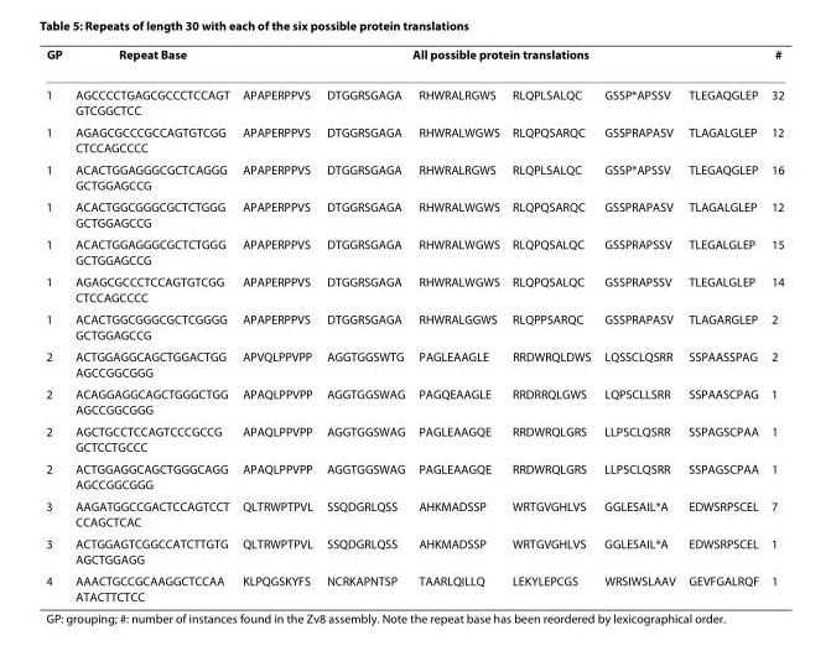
<table><thead><tr><td rowspan="2">GP 1</td><td rowspan="2">Repeat Base AGCCCCTGAGCGCCCTCCAGT GTCGGCTCC</td><td colspan="6">All possible protein translations</td><td rowspan="2"># 32</td></tr><tr><td>APAPERPPVS</td><td>DTGGRSGAGA</td><td>RHWRALRGWS</td><td>RLQPLSALQC</td><td>GSSP*APSSV</td><td>TLEGAQGLEP</td></tr></thead><tbody><tr><td>1</td><td>AGAGCGCCCGCCAGTGTCGG CTCCAGCCCC</td><td>APAPERPPVS</td><td>DTGGRSGAGA</td><td>RHWRALWGWS</td><td>RLQPQSARQC</td><td>GSSPRAPASV</td><td>TLAGALGLEP</td><td>12</td></tr><tr><td>1</td><td>ACACTGGAGGGCGCTCAGGG GCTGGAGCCG</td><td>APAPERPPVS</td><td>DTGGRSGAGA</td><td>RHWRALRGWS</td><td>RLQPLSALQC</td><td>GSSP*APSSV</td><td>TLEGAQGLEP</td><td>16</td></tr><tr><td>1</td><td>ACACTGGCGGGCGCTCTGGG GCTGGAGCCG</td><td>APAPERPPVS</td><td>DTGGRSGAGA</td><td>RHWRALWGWS</td><td>RLQPQSARQC</td><td>GSSPRAPASV</td><td>TLAGALGLEP</td><td>12</td></tr><tr><td>1</td><td>ACACTGGAGGGCGCTCTGGG GCTGGAGCCG</td><td>APAPERPPVS</td><td>DTGGRSGAGA</td><td>RHWRALWGWS</td><td>RLQPQSALQC</td><td>GSSPRAPSSV</td><td>TLEGALGLEP</td><td>15</td></tr><tr><td>1</td><td>AGAGCGCCCTCCAGTGTCGG CTCCAGCCCC</td><td>APAPERPPVS</td><td>DTGGRSGAGA</td><td>RHWRALWGWS</td><td>RLQPQSALQC</td><td>GSSPRAPSSV</td><td>TLEGALGLEP</td><td>14</td></tr><tr><td>1</td><td>ACACTGGCGGGCGCTCGGGG GCTGGAGCCG</td><td>APAPERPPVS</td><td>DTGGRSGAGA</td><td>RHWRALGGWS</td><td>RLQPPSARQC</td><td>GSSPRAPASV</td><td>TLAGARGLEP</td><td>2</td></tr><tr><td>2</td><td>ACTGGAGGCAGCTGGACTGG AGCCGGCGGG</td><td>APVQLPPVPP</td><td>AGGTGGSWTG</td><td>PAGLEAAGLE</td><td>RRDWRQLDWS</td><td>LQSSCLQSRR</td><td>SSPAASSPAG</td><td>2</td></tr><tr><td>2</td><td>ACAGGAGGCAGCTGGGCTGG AGCCGGCGGG</td><td>APAQLPPVPP</td><td>AGGTGGSWAG</td><td>PAGQEAAGLE</td><td>RRDRRQLGWS</td><td>LQPSCLLSRR</td><td>SSPAASCPAG</td><td>1</td></tr><tr><td>2</td><td>AGCTGCCTCCAGTCCCGCCG GCTCCTGCCC</td><td>APAQLPPVPP</td><td>AGGTGGSWAG</td><td>PAGLEAAGQE</td><td>RRDWRQLGRS</td><td>LLPSCLQSRR</td><td>SSPAGSCPAA</td><td>1</td></tr><tr><td>2</td><td>ACTGGAGGCAGCTGGGCAGG AGCCGGCGGG</td><td>APAQLPPVPP</td><td>AGGTGGSWAG</td><td>PAGLEAAGQE</td><td>RRDWRQLGRS</td><td>LLPSCLQSRR</td><td>SSPAGSCPAA</td><td>1</td></tr><tr><td>3</td><td>AAGATGGCCGACTCCAGTCCT CCAGCTCAC</td><td>QLTRWPTPVL</td><td>SSQDGRLQSS</td><td>AHKMADSSP</td><td>WRTGVGHLVS</td><td>GGLESAIL*A</td><td>EDWSRPSCEL</td><td>7</td></tr><tr><td>3</td><td>ACTGGAGTCGGCCATCTTGTG AGCTGGAGG</td><td>QLTRWPTPVL</td><td>SSQDGRLQSS</td><td>AHKMADSSP</td><td>WRTGVGHLVS</td><td>GGLESAIL*A</td><td>EDWSRPSCEL</td><td>1</td></tr><tr><td>4</td><td>AAACTGCCGCAAGGCTCCAA ATACTTCTCC</td><td>KLPQGSKYFS</td><td>NCRKAPNTSP</td><td>TAARLQILLQ</td><td>LEKYLEPCGS</td><td>WRSIWSLAAV</td><td>GEVFGALRQF</td><td>1</td></tr></tbody></table>